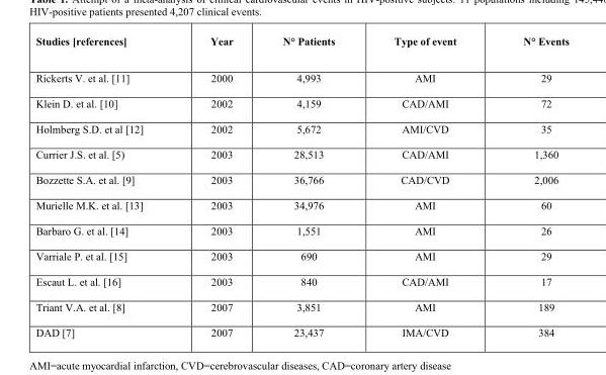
<table><thead><tr><td>Studies [references]</td><td>Year</td><td>N° Patients</td><td>Type of event</td><td>N° Events</td></tr></thead><tbody><tr><td>Rickerts V. et al. [11]</td><td>2000</td><td>4,993</td><td>AMI</td><td>29</td></tr><tr><td>Klein D. et al. [10]</td><td>2002</td><td>4,159</td><td>CAD/AMI</td><td>72</td></tr><tr><td>Holmberg S.D. et al [12]</td><td>2002</td><td>5,672</td><td>AMI/CVD</td><td>35</td></tr><tr><td>Currier J.S. et al. [5)</td><td>2003</td><td>28,513</td><td>CAD/AMI</td><td>1,360</td></tr><tr><td>Bozzette S.A. et al. [9]</td><td>2003</td><td>36,766</td><td>CAD/CVD</td><td>2,006</td></tr><tr><td>Murielle M.K. et al. [13]</td><td>2003</td><td>34,976</td><td>AMI</td><td>60</td></tr><tr><td>Barbaro G. et al. [14]</td><td>2003</td><td>1,551</td><td>AMI</td><td>26</td></tr><tr><td>Varriale P. et al. [15]</td><td>2003</td><td>690</td><td>AMI</td><td>29</td></tr><tr><td>Escaut L. et al. [16]</td><td>2003</td><td>840</td><td>CAD/AMI</td><td>17</td></tr><tr><td>Triant V.A. et al. [8]</td><td>2007</td><td>3,851</td><td>AMI</td><td>189</td></tr><tr><td>DAD [7]</td><td>2007</td><td>23,437</td><td>IMA/CVD</td><td>384</td></tr></tbody></table>